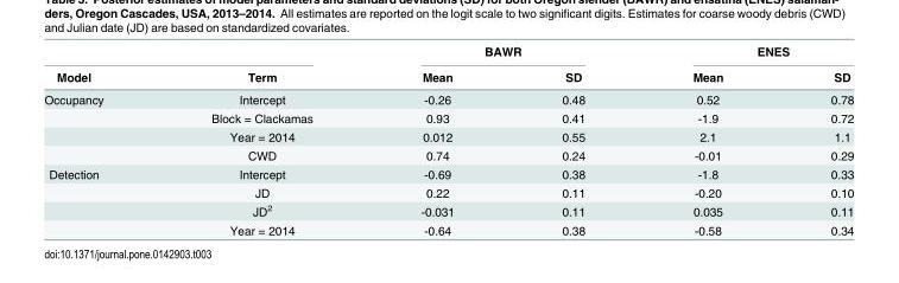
<table><thead><tr><td rowspan="2">Model</td><td rowspan="2">Term</td><td colspan="2">BAWR</td><td colspan="2">ENES</td></tr><tr><td>Mean</td><td>SD</td><td>Mean</td><td>SD</td></tr></thead><tbody><tr><td rowspan="4">Occupancy</td><td>Intercept</td><td>-0.26</td><td>0.48</td><td>0.52</td><td>0.78</td></tr><tr><td>Block = Clackamas</td><td>0.93</td><td>0.41</td><td>-1.9</td><td>0.72</td></tr><tr><td>Year = 2014</td><td>0.012</td><td>0.55</td><td>2.1</td><td>1.1</td></tr><tr><td>CWD</td><td>0.74</td><td>0.24</td><td>-0.01</td><td>0.29</td></tr><tr><td rowspan="4">Detection</td><td>Intercept</td><td>-0.69</td><td>0.38</td><td>-1.8</td><td>0.33</td></tr><tr><td>JD</td><td>0.22</td><td>0.11</td><td>-0.20</td><td>0.10</td></tr><tr><td>JD<sup>2</sup></td><td>-0.031</td><td>0.11</td><td>0.035</td><td>0.11</td></tr><tr><td>Year = 2014</td><td>-0.64</td><td>0.38</td><td>-0.58</td><td>0.34</td></tr></tbody></table>